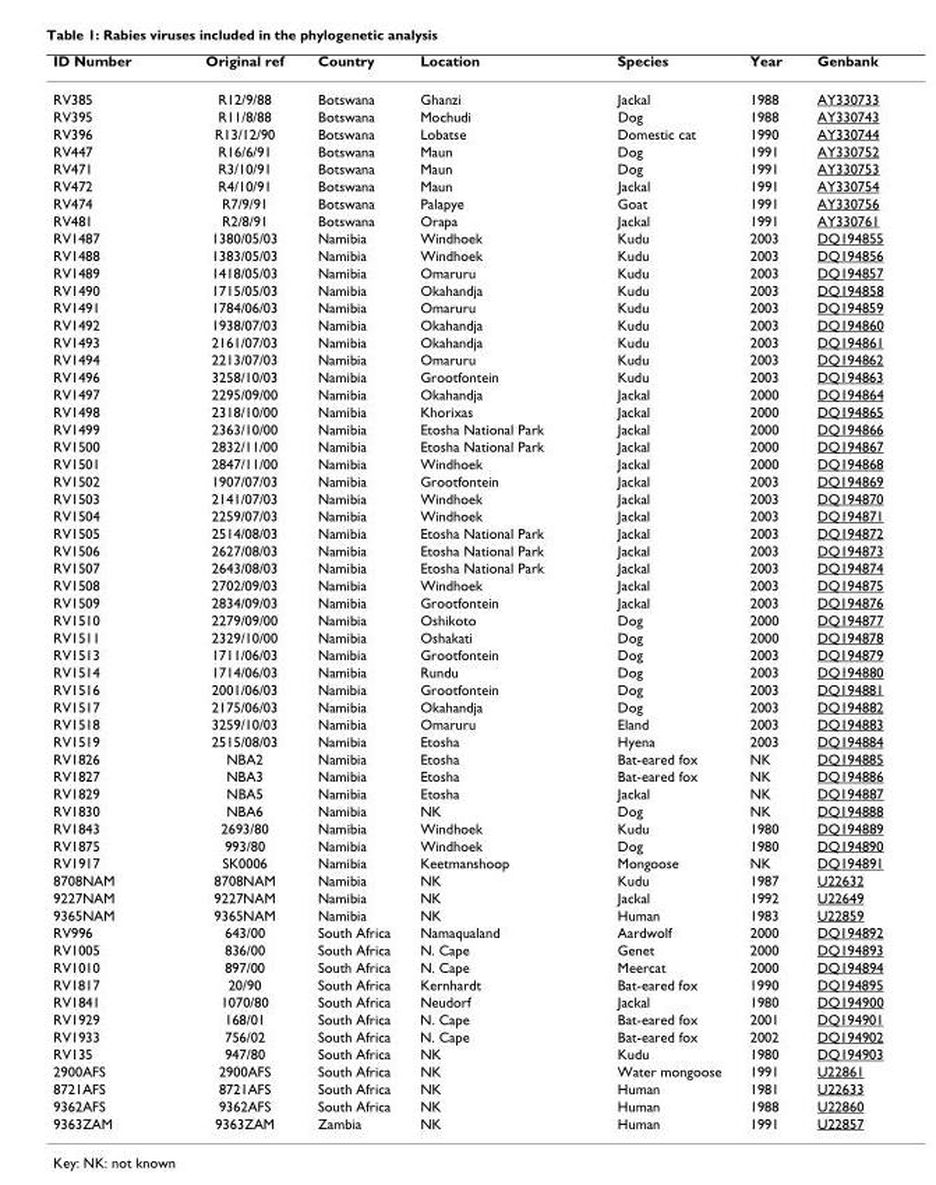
<table><thead><tr><td>ID Number</td><td>Original ref</td><td>Country</td><td>Location</td><td>Species</td><td>Year</td><td>Genbank</td></tr></thead><tbody><tr><td>RV385</td><td>R12/9/88</td><td>Botswana</td><td>Ghanzi</td><td>Jackal</td><td>1988</td><td>AY330733</td></tr><tr><td>RV395</td><td>R11/8/88</td><td>Botswana</td><td>Mochudi</td><td>Dog</td><td>1988</td><td>AY330743</td></tr><tr><td>RV396</td><td>R13/12/90</td><td>Botswana</td><td>Lobatse</td><td>Domestic cat</td><td>1990</td><td>AY330744</td></tr><tr><td>RV447</td><td>R16/6/91</td><td>Botswana</td><td>Maun</td><td>Dog</td><td>1991</td><td>AY330752</td></tr><tr><td>RV471</td><td>R3/10/91</td><td>Botswana</td><td>Maun</td><td>Dog</td><td>1991</td><td>AY330753</td></tr><tr><td>RV472</td><td>R4/10/91</td><td>Botswana</td><td>Maun</td><td>Jackal</td><td>1991</td><td>AY330754</td></tr><tr><td>RV474</td><td>R7/9/91</td><td>Botswana</td><td>Palapye</td><td>Goat</td><td>1991</td><td>AY330756</td></tr><tr><td>RV481</td><td>R2/8/91</td><td>Botswana</td><td>Orapa</td><td>Jackal</td><td>1991</td><td>AY330761</td></tr><tr><td>RV1487</td><td>1380/05/03</td><td>Namibia</td><td>Windhoek</td><td>Kudu</td><td>2003</td><td>DQ194855</td></tr><tr><td>RV1488</td><td>1383/05/03</td><td>Namibia</td><td>Windhoek</td><td>Kudu</td><td>2003</td><td>DQ194856</td></tr><tr><td>RV1489</td><td>1418/05/03</td><td>Namibia</td><td>Omaruru</td><td>Kudu</td><td>2003</td><td>DQ194857</td></tr><tr><td>RV1490</td><td>1715/05/03</td><td>Namibia</td><td>Okahandja</td><td>Kudu</td><td>2003</td><td>DQ194858</td></tr><tr><td>RV1491</td><td>1784/06/03</td><td>Namibia</td><td>Omaruru</td><td>Kudu</td><td>2003</td><td>DQ194859</td></tr><tr><td>RV1492</td><td>1938/07/03</td><td>Namibia</td><td>Okahandja</td><td>Kudu</td><td>2003</td><td>DQ194860</td></tr><tr><td>RV1493</td><td>2161/07/03</td><td>Namibia</td><td>Okahandja</td><td>Kudu</td><td>2003</td><td>DQ194861</td></tr><tr><td>RV1494</td><td>2213/07/03</td><td>Namibia</td><td>Omaruru</td><td>Kudu</td><td>2003</td><td>DQ194862</td></tr><tr><td>RV1496</td><td>3258/10/03</td><td>Namibia</td><td>Grootfontein</td><td>Kudu</td><td>2003</td><td>DQ194863</td></tr><tr><td>RV1497</td><td>2295/09/00</td><td>Namibia</td><td>Okahandja</td><td>Jackal</td><td>2000</td><td>DQ194864</td></tr><tr><td>RV1498</td><td>2318/10/00</td><td>Namibia</td><td>Khorixas</td><td>Jackal</td><td>2000</td><td>DQ194865</td></tr><tr><td>RV1499</td><td>2363/10/00</td><td>Namibia</td><td>Etosha National Park</td><td>Jackal</td><td>2000</td><td>DQ194866</td></tr><tr><td>RV1500</td><td>2832/11/00</td><td>Namibia</td><td>Etosha National Park</td><td>Jackal</td><td>2000</td><td>DQ194867</td></tr><tr><td>RV1501</td><td>2847/11/00</td><td>Namibia</td><td>Windhoek</td><td>Jackal</td><td>2000</td><td>DQ194868</td></tr><tr><td>RV1502</td><td>1907/07/03</td><td>Namibia</td><td>Grootfontein</td><td>Jackal</td><td>2003</td><td>DQ194869</td></tr><tr><td>RV1503</td><td>2141/07/03</td><td>Namibia</td><td>Windhoek</td><td>Jackal</td><td>2003</td><td>DQ194870</td></tr><tr><td>RV1504</td><td>2259/07/03</td><td>Namibia</td><td>Windhoek</td><td>Jackal</td><td>2003</td><td>DQ194871</td></tr><tr><td>RV1505</td><td>2514/08/03</td><td>Namibia</td><td>Etosha National Park</td><td>Jackal</td><td>2003</td><td>DQ194872</td></tr><tr><td>RV1506</td><td>2627/08/03</td><td>Namibia</td><td>Etosha National Park</td><td>Jackal</td><td>2003</td><td>DQ194873</td></tr><tr><td>RV1507</td><td>2643/08/03</td><td>Namibia</td><td>Etosha National Park</td><td>Jackal</td><td>2003</td><td>DQ194874</td></tr><tr><td>RV1508</td><td>2702/09/03</td><td>Namibia</td><td>Windhoek</td><td>Jackal</td><td>2003</td><td>DQ194875</td></tr><tr><td>RV1509</td><td>2834/09/03</td><td>Namibia</td><td>Grootfontein</td><td>Jackal</td><td>2003</td><td>DQ194876</td></tr><tr><td>RV1510</td><td>2279/09/00</td><td>Namibia</td><td>Oshikoto</td><td>Dog</td><td>2000</td><td>DQ194877</td></tr><tr><td>RV1511</td><td>2329/10/00</td><td>Namibia</td><td>Oshakati</td><td>Dog</td><td>2000</td><td>DQ194878</td></tr><tr><td>RV1513</td><td>1711/06/03</td><td>Namibia</td><td>Grootfontein</td><td>Dog</td><td>2003</td><td>DQ194879</td></tr><tr><td>RV1514</td><td>1714/06/03</td><td>Namibia</td><td>Rundu</td><td>Dog</td><td>2003</td><td>DQ194880</td></tr><tr><td>RV1516</td><td>2001/06/03</td><td>Namibia</td><td>Grootfontein</td><td>Dog</td><td>2003</td><td>DQ194881</td></tr><tr><td>RV1517</td><td>2175/06/03</td><td>Namibia</td><td>Okahandja</td><td>Dog</td><td>2003</td><td>DQ194882</td></tr><tr><td>RV1518</td><td>3259/10/03</td><td>Namibia</td><td>Omaruru</td><td>Eland</td><td>2003</td><td>DQ194883</td></tr><tr><td>RV1519</td><td>2515/08/03</td><td>Namibia</td><td>Etosha</td><td>Hyena</td><td>2003</td><td>DQ194884</td></tr><tr><td>RV1826</td><td>NBA2</td><td>Namibia</td><td>Etosha</td><td>Bat-eared fox</td><td>NK</td><td>DQ194885</td></tr><tr><td>RV1827</td><td>NBA3</td><td>Namibia</td><td>Etosha</td><td>Bat-eared fox</td><td>NK</td><td>DQ194886</td></tr><tr><td>RV1829</td><td>NBA5</td><td>Namibia</td><td>Etosha</td><td>Jackal</td><td>NK</td><td>DQ194887</td></tr><tr><td>RV1830</td><td>NBA6</td><td>Namibia</td><td>NK</td><td>Dog</td><td>NK</td><td>DQ194888</td></tr><tr><td>RV1843</td><td>2693/80</td><td>Namibia</td><td>Windhoek</td><td>Kudu</td><td>1980</td><td>DQ194889</td></tr><tr><td>RV1875</td><td>993/80</td><td>Namibia</td><td>Windhoek</td><td>Dog</td><td>1980</td><td>DQ194890</td></tr><tr><td>RV1917</td><td>SK0006</td><td>Namibia</td><td>Keetmanshoop</td><td>Mongoose</td><td>NK</td><td>DQ194891</td></tr><tr><td>8708NAM</td><td>8708NAM</td><td>Namibia</td><td>NK</td><td>Kudu</td><td>1987</td><td>U22632</td></tr><tr><td>9227NAM</td><td>9227NAM</td><td>Namibia</td><td>NK</td><td>Jackal</td><td>1992</td><td>U22649</td></tr><tr><td>9365NAM</td><td>9365NAM</td><td>Namibia</td><td>NK</td><td>Human</td><td>1983</td><td>U22859</td></tr><tr><td>RV996</td><td>643/00</td><td>South Africa</td><td>Namaqualand</td><td>Aardwolf</td><td>2000</td><td>DQ194892</td></tr><tr><td>RV1005</td><td>836/00</td><td>South Africa</td><td>N. Cape</td><td>Genet</td><td>2000</td><td>DQ194893</td></tr><tr><td>RV1010</td><td>897/00</td><td>South Africa</td><td>N. Cape</td><td>Meercat</td><td>2000</td><td>DQ194894</td></tr><tr><td>RV1817</td><td>20/90</td><td>South Africa</td><td>Kernhardt</td><td>Bat-eared fox</td><td>1990</td><td>DQ194895</td></tr><tr><td>RV1841</td><td>1070/80</td><td>South Africa</td><td>Neudorf</td><td>Jackal</td><td>1980</td><td>DQ194900</td></tr><tr><td>RV1929</td><td>168/01</td><td>South Africa</td><td>N. Cape</td><td>Bat-eared fox</td><td>2001</td><td>DQ194901</td></tr><tr><td>RV1933</td><td>756/02</td><td>South Africa</td><td>N. Cape</td><td>Bat-eared fox</td><td>2002</td><td>DQ194902</td></tr><tr><td>RV135</td><td>947/80</td><td>South Africa</td><td>NK</td><td>Kudu</td><td>1980</td><td>DQ194903</td></tr><tr><td>2900AFS</td><td>2900AFS</td><td>South Africa</td><td>NK</td><td>Water mongoose</td><td>1991</td><td>U22861</td></tr><tr><td>8721AFS</td><td>8721AFS</td><td>South Africa</td><td>NK</td><td>Human</td><td>1981</td><td>U22633</td></tr><tr><td>9362AFS</td><td>9362AFS</td><td>South Africa</td><td>NK</td><td>Human</td><td>1988</td><td>U22860</td></tr><tr><td>9363ZAM</td><td>9363ZAM</td><td>Zambia</td><td>NK</td><td>Human</td><td>1991</td><td>U22857</td></tr></tbody></table>